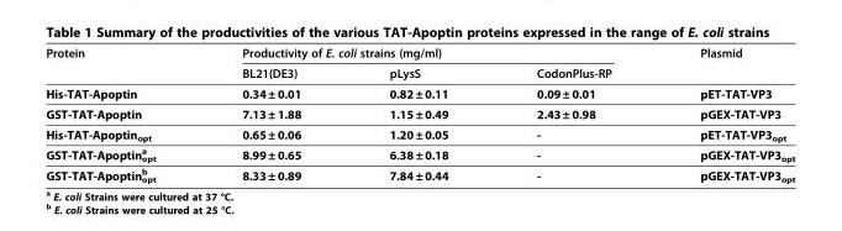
<table><thead><tr><td rowspan="2">Protein</td><td colspan="3">Productivity of E. coli strains (mg/ml)</td><td rowspan="2">Plasmid</td></tr><tr><td>BL21(DE3)</td><td>pLysS</td><td>CodonPlus-RP</td></tr></thead><tbody><tr><td>His-TAT-Apoptin</td><td>0.34 ± 0.01</td><td>0.82 ± 0.11</td><td>0.09 ± 0.01</td><td>pET-TAT-VP3</td></tr><tr><td>GST-TAT-Apoptin</td><td>7.13 ± 1.88</td><td>1.15 ± 0.49</td><td>2.43 ± 0.98</td><td>pGEX-TAT-VP3</td></tr><tr><td>His-TAT-Apoptin<sub>opt</sub></td><td>0.65 ± 0.06</td><td>1.20 ± 0.05</td><td>-</td><td>pET-TAT-VP3<sub>opt</sub></td></tr><tr><td>GST-TAT-Apoptin<sub>opt</sub> <sup>a</sup></td><td>8.99 ± 0.65</td><td>6.38 ± 0.18</td><td>-</td><td>pGEX-TAT-VP3<sub>opt</sub></td></tr><tr><td>GST-TAT-Apoptin<sub>opt</sub> <sup>b</sup></td><td>8.33 ± 0.89</td><td>7.84 ± 0.44</td><td>-</td><td>pGEX-TAT-VP3<sub>opt</sub></td></tr></tbody></table>